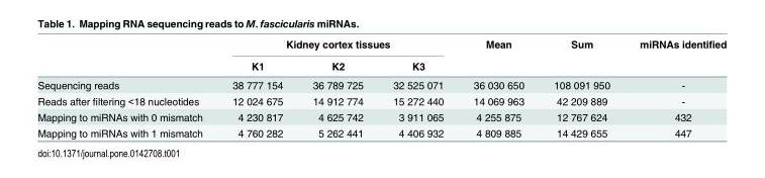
<table><thead><tr><td rowspan="2"></td><td colspan="3">Kidney cortex tissues</td><td rowspan="2">Mean</td><td rowspan="2">Sum</td><td rowspan="2">miRNAs identified</td></tr><tr><td>K1</td><td>K2</td><td>K3</td></tr></thead><tbody><tr><td>Sequencing reads</td><td>38 777 154</td><td>36 789 725</td><td>32 525 071</td><td>36 030 650</td><td>108 091 950</td><td>-</td></tr><tr><td>Reads after filtering &lt;18 nucleotides</td><td>12 024 675</td><td>14 912 774</td><td>15 272 440</td><td>14 069 963</td><td>42 209 889</td><td>-</td></tr><tr><td>Mapping to miRNAs with 0 mismatch</td><td>4 230 817</td><td>4 625 742</td><td>3 911 065</td><td>4 255 875</td><td>12 767 624</td><td>432</td></tr><tr><td>Mapping to miRNAs with 1 mismatch</td><td>4 760 282</td><td>5 262 441</td><td>4 406 932</td><td>4 809 885</td><td>14 429 655</td><td>447</td></tr></tbody></table>